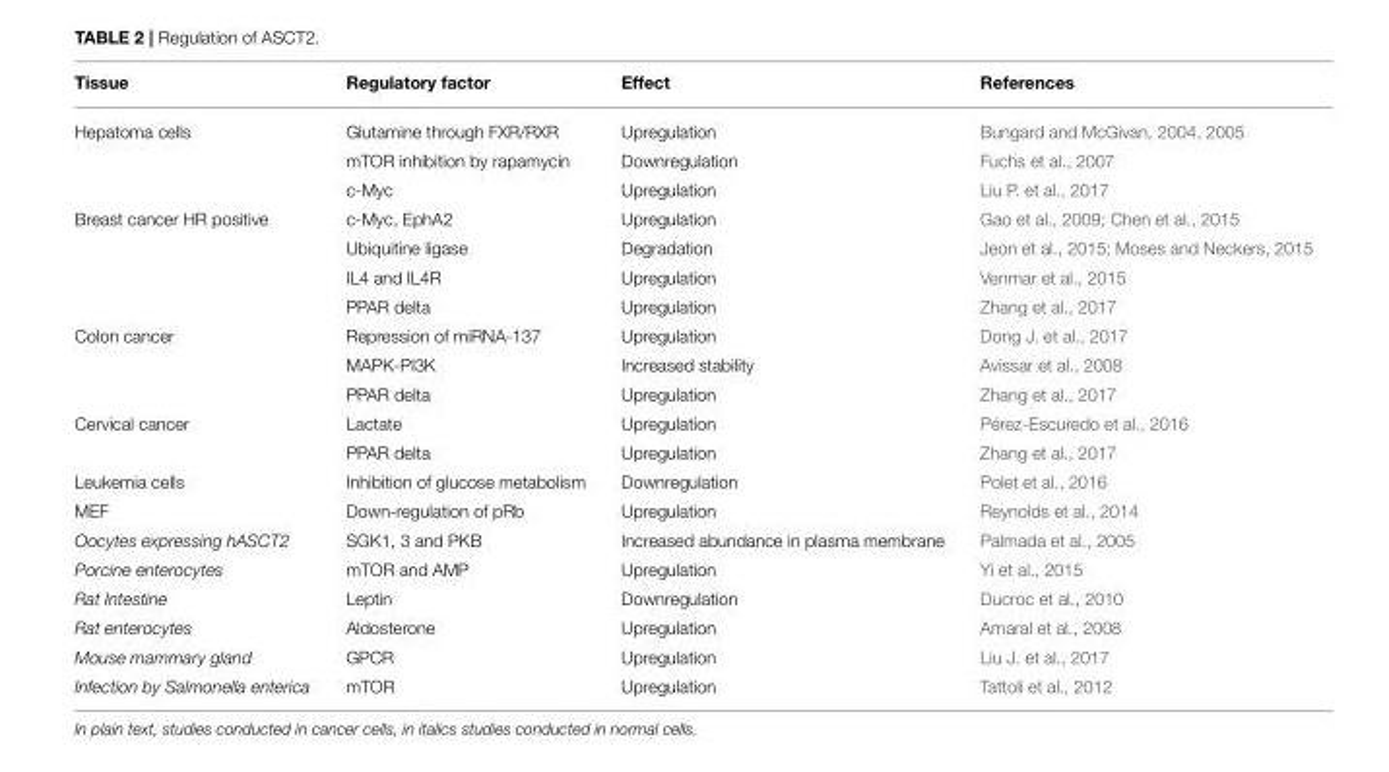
<table><thead><tr><td>Tissue</td><td>Regulatory factor</td><td>Effect</td><td>References</td></tr></thead><tbody><tr><td rowspan="3">Hepatoma cells</td><td>Glutamine through FXR/RXR</td><td>Upregulation</td><td>Bungard and McGivan, 2004, 2005</td></tr><tr><td>mTOR inhibition by rapamycin</td><td>Downregulation</td><td>Fuchs et al., 2007</td></tr><tr><td>c-Myc</td><td>Upregulation</td><td>Liu P. et al., 2017</td></tr><tr><td rowspan="4">Breast cancer HR positive</td><td>c-Myc, EphA2</td><td>Upregulation</td><td>Gao et al., 2009; Chen et al., 2015</td></tr><tr><td>Ubiquitine ligase</td><td>Degradation</td><td>Jeon et al., 2015; Moses and Neckers, 2015</td></tr><tr><td>IL4 and IL4R</td><td>Upregulation</td><td>Venmar et al., 2015</td></tr><tr><td>PPAR delta</td><td>Upregulation</td><td>Zhang et al., 2017</td></tr><tr><td rowspan="3">Colon cancer</td><td>Repression of miRNA-137</td><td>Upregulation</td><td>Dong J. et al., 2017</td></tr><tr><td>MAPK-PI3K</td><td>Increased stability</td><td>Avissar et al., 2008</td></tr><tr><td>PPAR delta</td><td>Upregulation</td><td>Zhang et al., 2017</td></tr><tr><td rowspan="2">Cervical cancer</td><td>Lactate</td><td>Upregulation</td><td>Pérez-Escuredo et al., 2016</td></tr><tr><td>PPAR delta</td><td>Upregulation</td><td>Zhang et al., 2017</td></tr><tr><td>Leukemia cells</td><td>Inhibition of glucose metabolism</td><td>Downregulation</td><td>Polet et al., 2016</td></tr><tr><td>MEF</td><td>Down-regulation of pRb</td><td>Upregulation</td><td>Reynolds et al., 2014</td></tr><tr><td>Oocytes expressing hASCT2</td><td>SGK1, 3 and PKB</td><td>Increased abundance in plasma membrane</td><td>Palmada et al., 2005</td></tr><tr><td>Porcine enterocytes</td><td>mTOR and AMP</td><td>Upregulation</td><td>Yi et al., 2015</td></tr><tr><td>Rat Intestine</td><td>Leptin</td><td>Downregulation</td><td>Ducroc et al., 2010</td></tr><tr><td>Rat enterocytes</td><td>Aldosterone</td><td>Upregulation</td><td>Amaral et al., 2008</td></tr><tr><td>Mouse mammary gland</td><td>GPCR</td><td>Upregulation</td><td>Liu J. et al., 2017</td></tr><tr><td>Infection by Salmonella enterica</td><td>mTOR</td><td>Upregulation</td><td>Tattoli et al., 2012</td></tr></tbody></table>